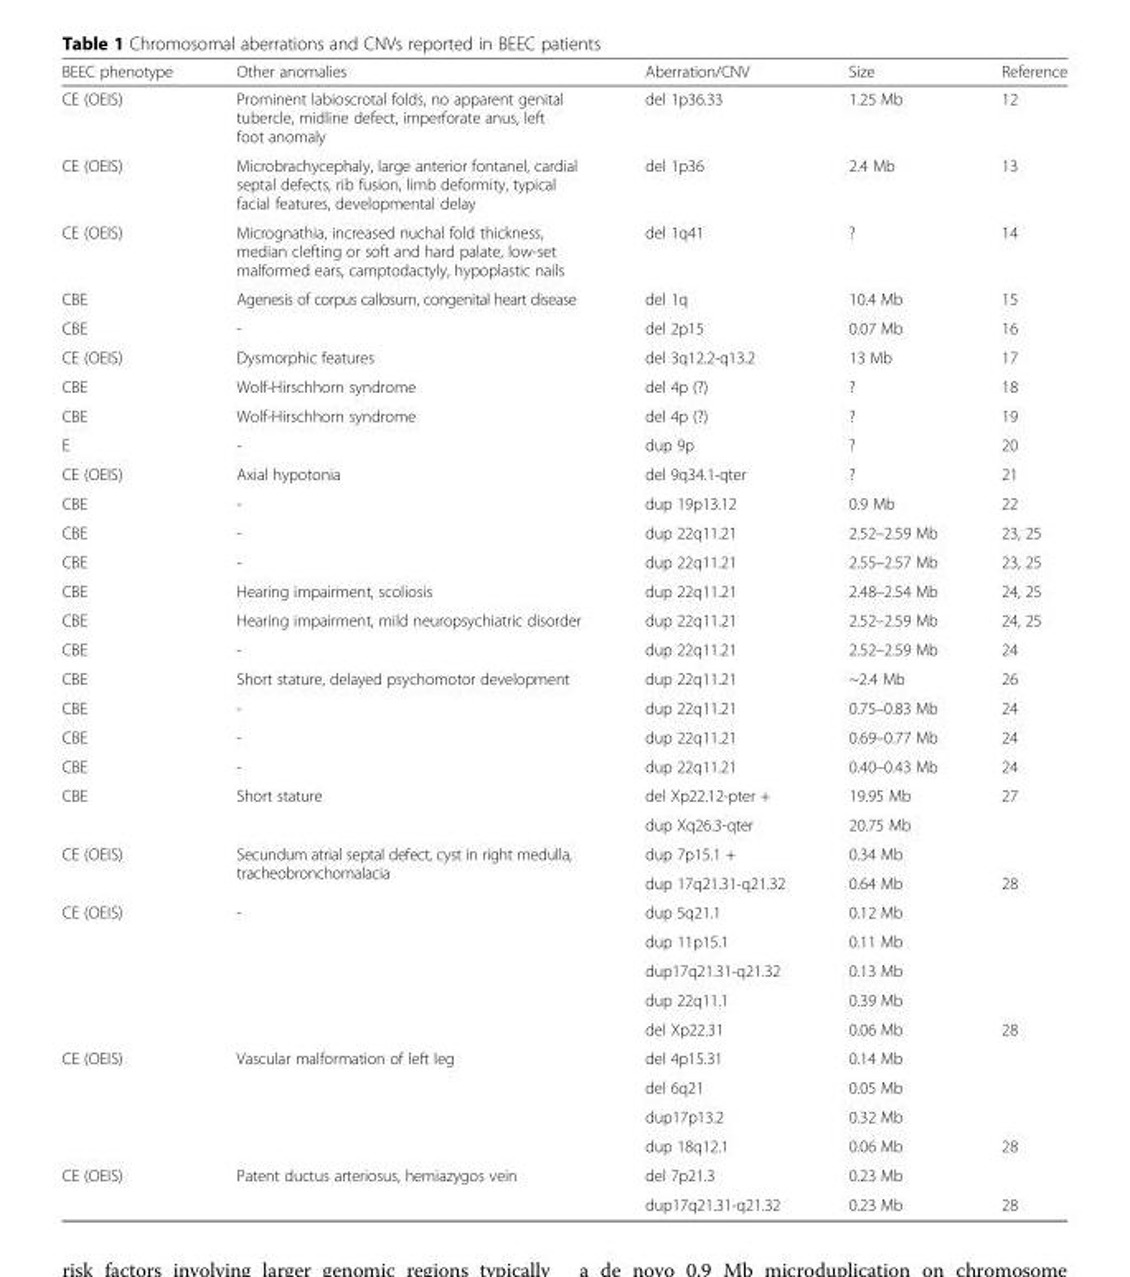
<table><thead><tr><td>BEEC phenotype</td><td>Other anomalies</td><td>Aberration/CNV</td><td>Size</td><td>Reference</td></tr></thead><tbody><tr><td>CE (OEIS)</td><td>Prominent labioscrotal folds, no apparent genital tubercle, midline defect, imperforate anus, left foot anomaly</td><td>del 1p36.33</td><td>1.25 Mb</td><td>12</td></tr><tr><td>CE (OEIS)</td><td>Microbrachycephaly, large anterior fontanel, cardial septal defects, rib fusion, limb deformity, typical facial features, developmental delay</td><td>del 1p36</td><td>2.4 Mb</td><td>13</td></tr><tr><td>CE (OEIS)</td><td>Micrognathia, increased nuchal fold thickness, median clefting or soft and hard palate, low-set malformed ears, camptodactyly, hypoplastic nails</td><td>del 1q41</td><td>?</td><td>14</td></tr><tr><td>CBE</td><td>Agenesis of corpus callosum, congenital heart disease</td><td>del 1q</td><td>10.4 Mb</td><td>15</td></tr><tr><td>CBE</td><td>-</td><td>del 2p15</td><td>0.07 Mb</td><td>16</td></tr><tr><td>CE (OEIS)</td><td>Dysmorphic features</td><td>del 3q12.2-q13.2</td><td>13 Mb</td><td>17</td></tr><tr><td>CBE</td><td>Wolf-Hirschhorn syndrome</td><td>del 4p (?)</td><td>?</td><td>18</td></tr><tr><td>CBE</td><td>Wolf-Hirschhorn syndrome</td><td>del 4p (?)</td><td>?</td><td>19</td></tr><tr><td>E</td><td>-</td><td>dup 9p</td><td>?</td><td>20</td></tr><tr><td>CE (OEIS)</td><td>Axial hypotonia</td><td>del 9q34.1-qter</td><td>?</td><td>21</td></tr><tr><td>CBE</td><td>-</td><td>dup 19p13.12</td><td>0.9 Mb</td><td>22</td></tr><tr><td>CBE</td><td>-</td><td>dup 22q11.21</td><td>2.52–2.59 Mb</td><td>23, 25</td></tr><tr><td>CBE</td><td>-</td><td>dup 22q11.21</td><td>2.55–2.57 Mb</td><td>23, 25</td></tr><tr><td>CBE</td><td>Hearing impairment, scoliosis</td><td>dup 22q11.21</td><td>2.48–2.54 Mb</td><td>24, 25</td></tr><tr><td>CBE</td><td>Hearing impairment, mild neuropsychiatric disorder</td><td>dup 22q11.21</td><td>2.52–2.59 Mb</td><td>24, 25</td></tr><tr><td>CBE</td><td>-</td><td>dup 22q11.21</td><td>2.52–2.59 Mb</td><td>24</td></tr><tr><td>CBE</td><td>Short stature, delayed psychomotor development</td><td>dup 22q11.21</td><td>~2.4 Mb</td><td>26</td></tr><tr><td>CBE</td><td>-</td><td>dup 22q11.21</td><td>0.75–0.83 Mb</td><td>24</td></tr><tr><td>CBE</td><td>-</td><td>dup 22q11.21</td><td>0.69–0.77 Mb</td><td>24</td></tr><tr><td>CBE</td><td>-</td><td>dup 22q11.21</td><td>0.40–0.43 Mb</td><td>24</td></tr><tr><td rowspan="2">CBE</td><td rowspan="2">Short stature</td><td>del Xp22.12-pter +</td><td>19.95 Mb</td><td>27</td></tr><tr><td>dup Xq26.3-qter</td><td>20.75 Mb</td><td></td></tr><tr><td rowspan="2">CE (OEIS)</td><td rowspan="2">Secundum atrial septal defect, cyst in right medulla, tracheobronchomalacia</td><td>dup 7p15.1 +</td><td>0.34 Mb</td><td></td></tr><tr><td>dup 17q21.31-q21.32</td><td>0.64 Mb</td><td>28</td></tr><tr><td rowspan="5">CE (OEIS)</td><td rowspan="5">-</td><td>dup 5q21.1</td><td>0.12 Mb</td><td></td></tr><tr><td>dup 11p15.1</td><td>0.11 Mb</td><td></td></tr><tr><td>dup17q21.31-q21.32</td><td>0.13 Mb</td><td></td></tr><tr><td>dup 22q11.1</td><td>0.39 Mb</td><td></td></tr><tr><td>del Xp22.31</td><td>0.06 Mb</td><td>28</td></tr><tr><td rowspan="4">CE (OEIS)</td><td rowspan="4">Vascular malformation of left leg</td><td>del 4p15.31</td><td>0.14 Mb</td><td></td></tr><tr><td>del 6q21</td><td>0.05 Mb</td><td></td></tr><tr><td>dup17p13.2</td><td>0.32 Mb</td><td></td></tr><tr><td>dup 18q12.1</td><td>0.06 Mb</td><td>28</td></tr><tr><td rowspan="2">CE (OEIS)</td><td rowspan="2">Patent ductus arteriosus, hemiazygos vein</td><td>del 7p21.3</td><td>0.23 Mb</td><td></td></tr><tr><td>dup17q21.31-q21.32</td><td>0.23 Mb</td><td>28</td></tr></tbody></table>